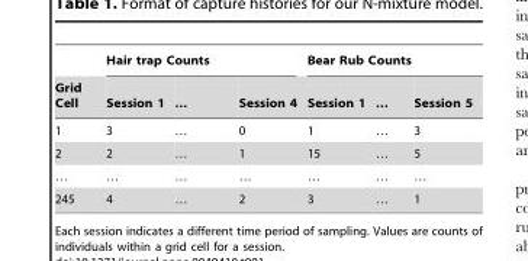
<table><thead><tr><td rowspan="2">Grid Cell</td><td colspan="3">Hair trap Counts</td><td colspan="3">Bear Rub Counts</td></tr><tr><td>Session 1</td><td>…</td><td>Session 4</td><td>Session 1</td><td>…</td><td>Session 5</td></tr></thead><tbody><tr><td>1</td><td>3</td><td>…</td><td>0</td><td>1</td><td>…</td><td>3</td></tr><tr><td>2</td><td>2</td><td>…</td><td>1</td><td>15</td><td>…</td><td>5</td></tr><tr><td>…</td><td>…</td><td>…</td><td>…</td><td>…</td><td>…</td><td>…</td></tr><tr><td>245</td><td>4</td><td>…</td><td>2</td><td>3</td><td>…</td><td>1</td></tr></tbody></table>